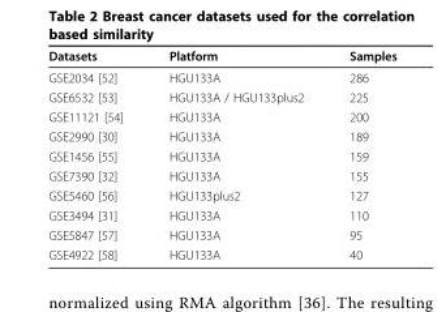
<table><thead><tr><td>Datasets</td><td>Platform</td><td>Samples</td></tr></thead><tbody><tr><td>GSE2034 [52]</td><td>HGU133A</td><td>286</td></tr><tr><td>GSE6532 [53]</td><td>HGU133A / HGU133plus2</td><td>225</td></tr><tr><td>GSE11121 [54]</td><td>HGU133A</td><td>200</td></tr><tr><td>GSE2990 [30]</td><td>HGU133A</td><td>189</td></tr><tr><td>GSE1456 [55]</td><td>HGU133A</td><td>159</td></tr><tr><td>GSE7390 [32]</td><td>HGU133A</td><td>155</td></tr><tr><td>GSE5460 [56]</td><td>HGU133plus2</td><td>127</td></tr><tr><td>GSE3494 [31]</td><td>HGU133A</td><td>110</td></tr><tr><td>GSE5847 [57]</td><td>HGU133A</td><td>95</td></tr><tr><td>GSE4922 [58]</td><td>HGU133A</td><td>40</td></tr></tbody></table>